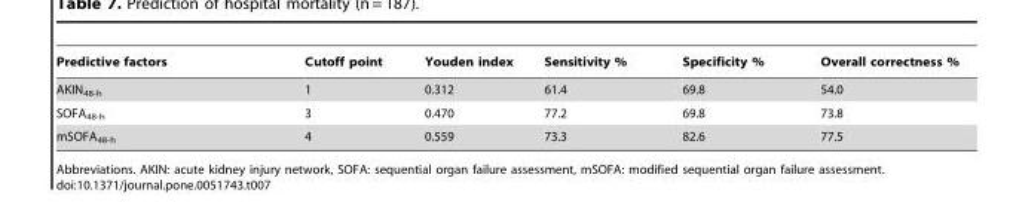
<table><thead><tr><td>Predictive factors</td><td>Cutoff point</td><td>Youden index</td><td>Sensitivity %</td><td>Specificity %</td><td>Overall correctness %</td></tr></thead><tbody><tr><td>AKIN<sub>48-h</sub></td><td>1</td><td>0.312</td><td>61.4</td><td>69.8</td><td>54.0</td></tr><tr><td>SOFA<sub>48-h</sub></td><td>3</td><td>0.470</td><td>77.2</td><td>69.8</td><td>73.8</td></tr><tr><td>mSOFA<sub>48-h</sub></td><td>4</td><td>0.559</td><td>73.3</td><td>82.6</td><td>77.5</td></tr></tbody></table>